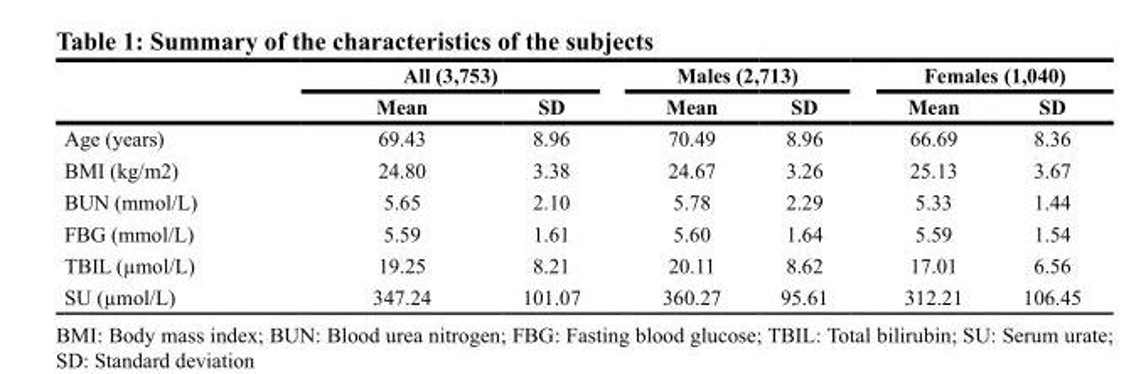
<table><thead><tr><td rowspan="2"></td><td colspan="2">All (3,753)</td><td colspan="2">Males (2,713)</td><td colspan="2">Females (1,040)</td></tr><tr><td>Mean</td><td>SD</td><td>Mean</td><td>SD</td><td>Mean</td><td>SD</td></tr></thead><tbody><tr><td>Age (years)</td><td>69.43</td><td>8.96</td><td>70.49</td><td>8.96</td><td>66.69</td><td>8.36</td></tr><tr><td>BMI (kg/m2)</td><td>24.80</td><td>3.38</td><td>24.67</td><td>3.26</td><td>25.13</td><td>3.67</td></tr><tr><td>BUN (mmol/L)</td><td>5.65</td><td>2.10</td><td>5.78</td><td>2.29</td><td>5.33</td><td>1.44</td></tr><tr><td>FBG (mmol/L)</td><td>5.59</td><td>1.61</td><td>5.60</td><td>1.64</td><td>5.59</td><td>1.54</td></tr><tr><td>TBIL (µmol/L)</td><td>19.25</td><td>8.21</td><td>20.11</td><td>8.62</td><td>17.01</td><td>6.56</td></tr><tr><td>SU (µmol/L)</td><td>347.24</td><td>101.07</td><td>360.27</td><td>95.61</td><td>312.21</td><td>106.45</td></tr></tbody></table>